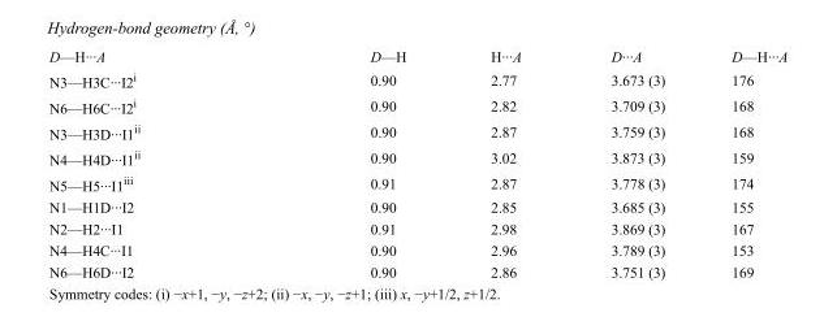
<table><tbody><tr><td>D—H···A</td><td>D—H</td><td>H···A</td><td>D···A</td><td>D—H···A</td></tr><tr><td>N3—H3C···I2<sup>i</sup></td><td>0.90</td><td>2.77</td><td>3.673 (3)</td><td>176</td></tr><tr><td>N6—H6C···I2<sup>i</sup></td><td>0.90</td><td>2.82</td><td>3.709 (3)</td><td>168</td></tr><tr><td>N3—H3D···I1<sup>ii</sup></td><td>0.90</td><td>2.87</td><td>3.759 (3)</td><td>168</td></tr><tr><td>N4—H4D···I1<sup>ii</sup></td><td>0.90</td><td>3.02</td><td>3.873 (3)</td><td>159</td></tr><tr><td>N5—H5···I1<sup>iii</sup></td><td>0.91</td><td>2.87</td><td>3.778 (3)</td><td>174</td></tr><tr><td>N1—H1D···I2</td><td>0.90</td><td>2.85</td><td>3.685 (3)</td><td>155</td></tr><tr><td>N2—H2···I1</td><td>0.91</td><td>2.98</td><td>3.869 (3)</td><td>167</td></tr><tr><td>N4—H4C···I1</td><td>0.90</td><td>2.96</td><td>3.789 (3)</td><td>153</td></tr><tr><td>N6—H6D···I2</td><td>0.90</td><td>2.86</td><td>3.751 (3)</td><td>169</td></tr></tbody></table>